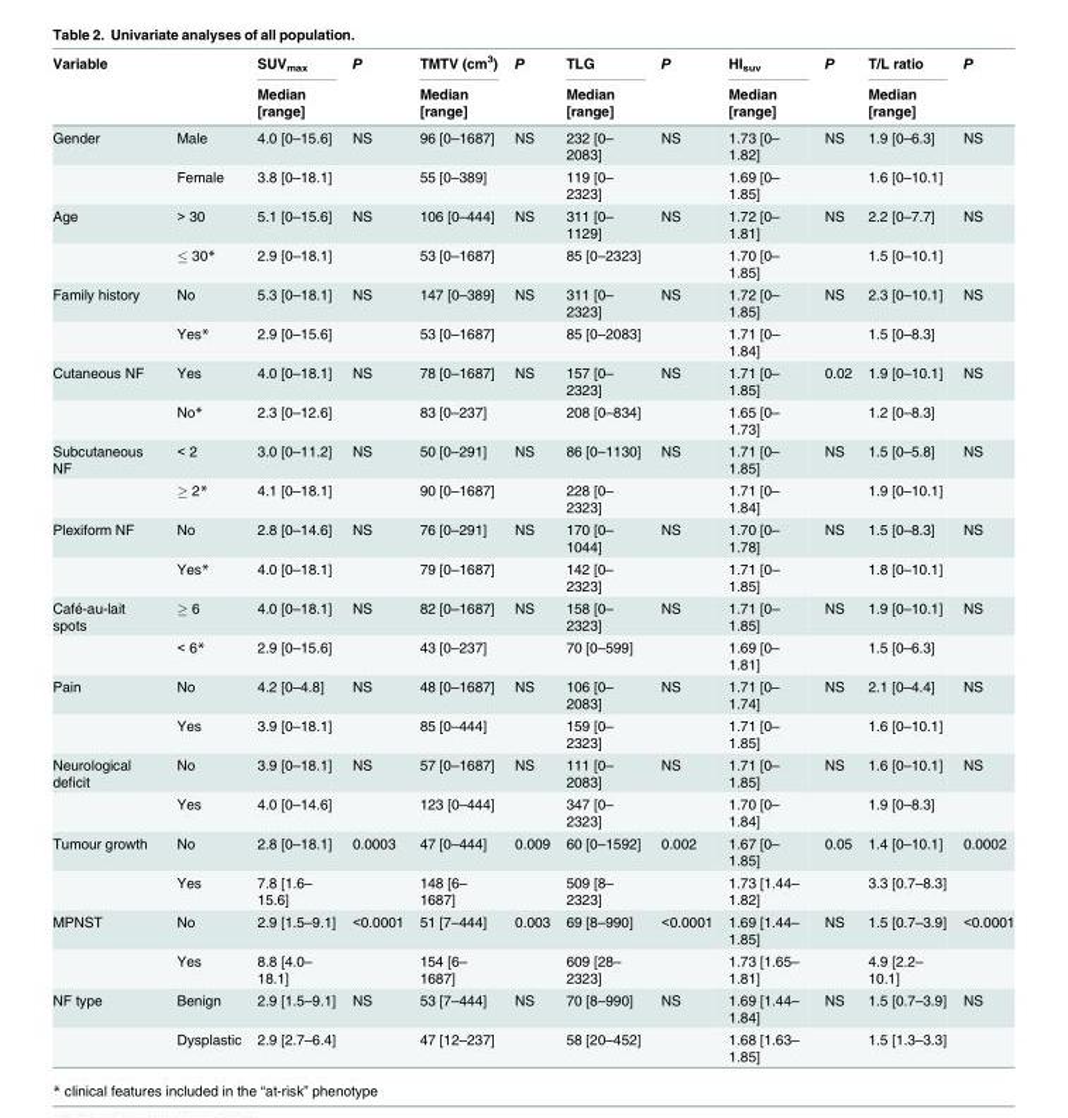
<table><thead><tr><td rowspan="2" colspan="2">Variable</td><td rowspan="3">SUV<sub>max</sub> Median [range] 4.0 [0–15.6]</td><td rowspan="3">P NS</td><td rowspan="3">TMTV (cm<sup>3</sup>) Median [range] 96 [0–1687]</td><td rowspan="3">P NS</td><td rowspan="3">TLG Median [range] 232 [0– 2083]</td><td rowspan="3">P NS</td><td rowspan="3">HI<sub>suv</sub> Median [range] 1.73 [0– 1.82]</td><td rowspan="3">P NS</td><td rowspan="3">T/L ratio Median [range] 1.9 [0–6.3]</td><td rowspan="3">P NS</td></tr><tr></tr><tr><td>Gender</td><td>Male</td></tr></thead><tbody><tr><td></td><td>Female</td><td>3.8 [0–18.1]</td><td></td><td>55 [0–389]</td><td></td><td>119 [0– 2323]</td><td></td><td>1.69 [0– 1.85]</td><td></td><td>1.6 [0–10.1]</td><td></td></tr><tr><td rowspan="2">Age</td><td>&gt; 30</td><td>5.1 [0–15.6]</td><td>NS</td><td>106 [0–444]</td><td>NS</td><td>311 [0– 1129]</td><td>NS</td><td>1.72 [0– 1.81]</td><td>NS</td><td>2.2 [0–7.7]</td><td>NS</td></tr><tr><td>≤ 30*</td><td>2.9 [0–18.1]</td><td></td><td>53 [0–1687]</td><td></td><td>85 [0–2323]</td><td></td><td>1.70 [0– 1.85]</td><td></td><td>1.5 [0–10.1]</td><td></td></tr><tr><td rowspan="2">Family history</td><td>No</td><td>5.3 [0–18.1]</td><td>NS</td><td>147 [0–389]</td><td>NS</td><td>311 [0– 2323]</td><td>NS</td><td>1.72 [0– 1.85]</td><td>NS</td><td>2.3 [0–10.1]</td><td>NS</td></tr><tr><td>Yes*</td><td>2.9 [0–15.6]</td><td></td><td>53 [0–1687]</td><td></td><td>85 [0–2083]</td><td></td><td>1.71 [0– 1.84]</td><td></td><td>1.5 [0–8.3]</td><td></td></tr><tr><td rowspan="2">Cutaneous NF</td><td>Yes</td><td>4.0 [0–18.1]</td><td>NS</td><td>78 [0–1687]</td><td>NS</td><td>157 [0– 2323]</td><td>NS</td><td>1.71 [0– 1.85]</td><td>0.02</td><td>1.9 [0–10.1]</td><td>NS</td></tr><tr><td>No*</td><td>2.3 [0–12.6]</td><td></td><td>83 [0–237]</td><td></td><td>208 [0–834]</td><td></td><td>1.65 [0– 1.73]</td><td></td><td>1.2 [0–8.3]</td><td></td></tr><tr><td rowspan="2">Subcutaneous NF</td><td>&lt; 2</td><td>3.0 [0–11.2]</td><td>NS</td><td>50 [0–291]</td><td>NS</td><td>86 [0–1130]</td><td>NS</td><td>1.71 [0– 1.85]</td><td>NS</td><td>1.5 [0–5.8]</td><td>NS</td></tr><tr><td>≥ 2*</td><td>4.1 [0–18.1]</td><td></td><td>90 [0–1687]</td><td></td><td>228 [0– 2323]</td><td></td><td>1.71 [0– 1.84]</td><td></td><td>1.9 [0–10.1]</td><td></td></tr><tr><td rowspan="2">Plexiform NF</td><td>No</td><td>2.8 [0–14.6]</td><td>NS</td><td>76 [0–291]</td><td>NS</td><td>170 [0– 1044]</td><td>NS</td><td>1.70 [0– 1.78]</td><td>NS</td><td>1.5 [0–8.3]</td><td>NS</td></tr><tr><td>Yes*</td><td>4.0 [0–18.1]</td><td></td><td>79 [0–1687]</td><td></td><td>142 [0– 2323]</td><td></td><td>1.71 [0– 1.85]</td><td></td><td>1.8 [0–10.1]</td><td></td></tr><tr><td rowspan="2">Café-au-lait spots</td><td>≥ 6</td><td>4.0 [0–18.1]</td><td>NS</td><td>82 [0–1687]</td><td>NS</td><td>158 [0– 2323]</td><td>NS</td><td>1.71 [0– 1.85]</td><td>NS</td><td>1.9 [0–10.1]</td><td>NS</td></tr><tr><td>&lt; 6*</td><td>2.9 [0–15.6]</td><td></td><td>43 [0–237]</td><td></td><td>70 [0–599]</td><td></td><td>1.69 [0– 1.81]</td><td></td><td>1.5 [0–6.3]</td><td></td></tr><tr><td rowspan="2">Pain</td><td>No</td><td>4.2 [0–4.8]</td><td>NS</td><td>48 [0–1687]</td><td>NS</td><td>106 [0– 2083]</td><td>NS</td><td>1.71 [0– 1.74]</td><td>NS</td><td>2.1 [0–4.4]</td><td>NS</td></tr><tr><td>Yes</td><td>3.9 [0–18.1]</td><td></td><td>85 [0–444]</td><td></td><td>159 [0– 2323]</td><td></td><td>1.71 [0– 1.85]</td><td></td><td>1.6 [0–10.1]</td><td></td></tr><tr><td rowspan="2">Neurological deficit</td><td>No</td><td>3.9 [0–18.1]</td><td>NS</td><td>57 [0–1687]</td><td>NS</td><td>111 [0– 2083]</td><td>NS</td><td>1.71 [0– 1.85]</td><td>NS</td><td>1.6 [0–10.1]</td><td>NS</td></tr><tr><td>Yes</td><td>4.0 [0–14.6]</td><td></td><td>123 [0–444]</td><td></td><td>347 [0– 2323]</td><td></td><td>1.70 [0– 1.84]</td><td></td><td>1.9 [0–8.3]</td><td></td></tr><tr><td rowspan="2">Tumour growth</td><td>No</td><td>2.8 [0–18.1]</td><td>0.0003</td><td>47 [0–444]</td><td>0.009</td><td>60 [0–1592]</td><td>0.002</td><td>1.67 [0– 1.85]</td><td>0.05</td><td>1.4 [0–10.1]</td><td>0.0002</td></tr><tr><td>Yes</td><td>7.8 [1.6– 15.6]</td><td></td><td>148 [6– 1687]</td><td></td><td>509 [8– 2323]</td><td></td><td>1.73 [1.44– 1.82]</td><td></td><td>3.3 [0.7–8.3]</td><td></td></tr><tr><td rowspan="2">MPNST</td><td>No</td><td>2.9 [1.5–9.1]</td><td>&lt;0.0001</td><td>51 [7–444]</td><td>0.003</td><td>69 [8–990]</td><td>&lt;0.0001</td><td>1.69 [1.44– 1.85]</td><td>NS</td><td>1.5 [0.7–3.9]</td><td>&lt;0.0001</td></tr><tr><td>Yes</td><td>8.8 [4.0– 18.1]</td><td></td><td>154 [6– 1687]</td><td></td><td>609 [28– 2323]</td><td></td><td>1.73 [1.65– 1.81]</td><td></td><td>4.9 [2.2– 10.1]</td><td></td></tr><tr><td rowspan="2">NF type</td><td>Benign</td><td>2.9 [1.5–9.1]</td><td>NS</td><td>53 [7–444]</td><td>NS</td><td>70 [8–990]</td><td>NS</td><td>1.69 [1.44– 1.84]</td><td>NS</td><td>1.5 [0.7–3.9]</td><td>NS</td></tr><tr><td>Dysplastic</td><td>2.9 [2.7–6.4]</td><td></td><td>47 [12–237]</td><td></td><td>58 [20–452]</td><td></td><td>1.68 [1.63– 1.85]</td><td></td><td>1.5 [1.3–3.3]</td><td></td></tr></tbody></table>